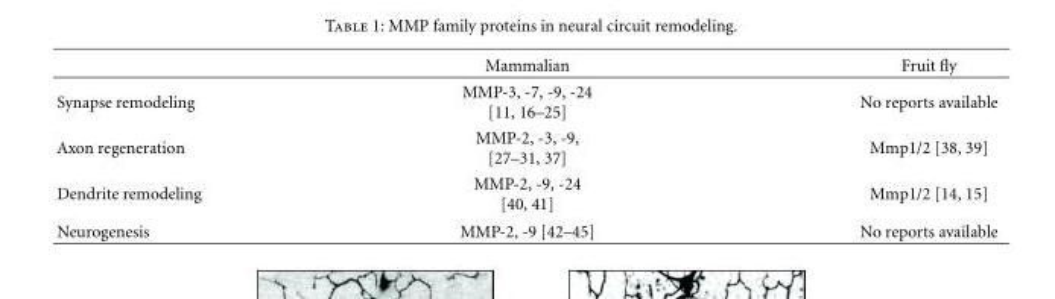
<table><thead><tr><td></td><td>Mammalian</td><td>Fruit fly</td></tr></thead><tbody><tr><td>Synapse remodeling</td><td>MMP-3, -7, -9, -24 [11, 16–25]</td><td>No reports available</td></tr><tr><td>Axon regeneration</td><td>MMP-2, -3, -9, [27–31, 37]</td><td>Mmp1/2 [38, 39]</td></tr><tr><td>Dendrite remodeling</td><td>MMP-2, -9, -24 [40, 41]</td><td>Mmp1/2 [14, 15]</td></tr><tr><td>Neurogenesis</td><td>MMP-2, -9 [42–45]</td><td>No reports available</td></tr></tbody></table>